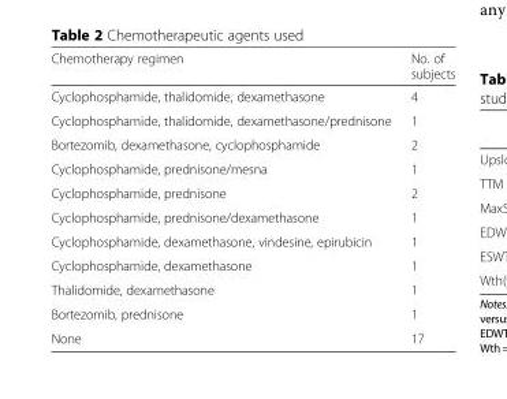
<table><thead><tr><td>Chemotherapy regimen</td><td>No. of subjects</td></tr></thead><tbody><tr><td>Cyclophosphamide, thalidomide, dexamethasone</td><td>4</td></tr><tr><td>Cyclophosphamide, thalidomide, dexamethasone/prednisone</td><td>1</td></tr><tr><td>Bortezomib, dexamethasone, cyclophosphamide</td><td>2</td></tr><tr><td>Cyclophosphamide, prednisone/mesna</td><td>1</td></tr><tr><td>Cyclophosphamide, prednisone</td><td>2</td></tr><tr><td>Cyclophosphamide, prednisone/dexamethasone</td><td>1</td></tr><tr><td>Cyclophosphamide, dexamethasone, vindesine, epirubicin</td><td>1</td></tr><tr><td>Cyclophosphamide, dexamethasone</td><td>1</td></tr><tr><td>Thalidomide, dexamethasone</td><td>1</td></tr><tr><td>Bortezomib, prednisone</td><td>1</td></tr><tr><td>None</td><td>17</td></tr></tbody></table>